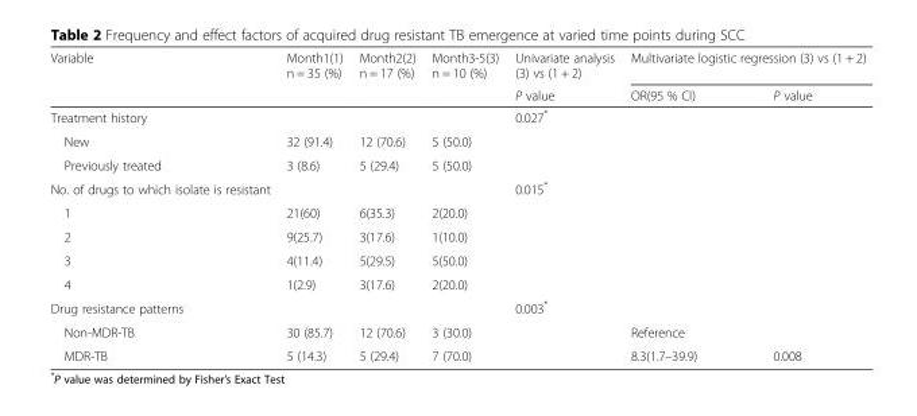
<table><thead><tr><td rowspan="2">Variable</td><td rowspan="2">Month1(1) n = 35 (%)</td><td rowspan="2">Month2(2) n = 17 (%)</td><td rowspan="2">Month3-5(3) n = 10 (%)</td><td rowspan="2">Univariate analysis (3) vs (1 + 2) P value</td><td colspan="2">Multivariate logistic regression (3) vs (1 + 2)</td></tr><tr><td>OR(95 % CI)</td><td>P value</td></tr></thead><tbody><tr><td>Treatment history</td><td></td><td></td><td></td><td>0.027*</td><td></td><td></td></tr><tr><td>New</td><td>32 (91.4)</td><td>12 (70.6)</td><td>5 (50.0)</td><td></td><td></td><td></td></tr><tr><td>Previously treated</td><td>3 (8.6)</td><td>5 (29.4)</td><td>5 (50.0)</td><td></td><td></td><td></td></tr><tr><td>No. of drugs to which isolate is resistant</td><td></td><td></td><td></td><td>0.015*</td><td></td><td></td></tr><tr><td>1</td><td>21(60)</td><td>6(35.3)</td><td>2(20.0)</td><td></td><td></td><td></td></tr><tr><td>2</td><td>9(25.7)</td><td>3(17.6)</td><td>1(10.0)</td><td></td><td></td><td></td></tr><tr><td>3</td><td>4(11.4)</td><td>5(29.5)</td><td>5(50.0)</td><td></td><td></td><td></td></tr><tr><td>4</td><td>1(2.9)</td><td>3(17.6)</td><td>2(20.0)</td><td></td><td></td><td></td></tr><tr><td>Drug resistance patterns</td><td></td><td></td><td></td><td>0.003*</td><td></td><td></td></tr><tr><td>Non-MDR-TB</td><td>30 (85.7)</td><td>12 (70.6)</td><td>3 (30.0)</td><td></td><td>Reference</td><td></td></tr><tr><td>MDR-TB</td><td>5 (14.3)</td><td>5 (29.4)</td><td>7 (70.0)</td><td></td><td>8.3(1.7–39.9)</td><td>0.008</td></tr></tbody></table>